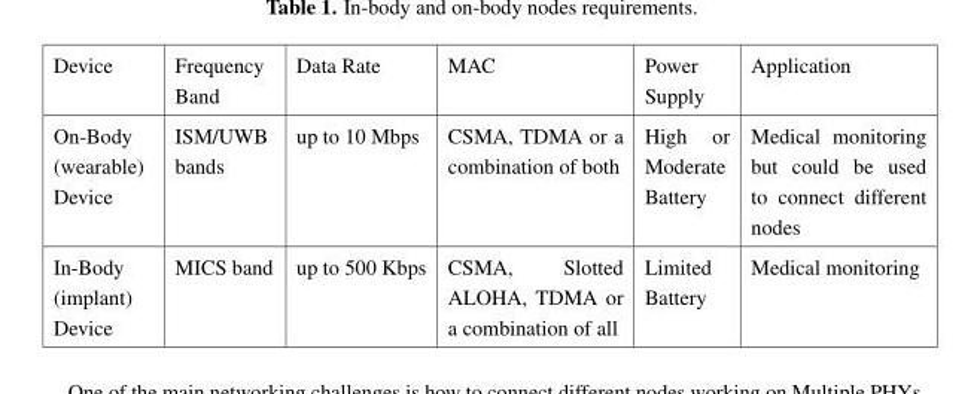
<table><thead><tr><td>Device</td><td>Frequency Band</td><td>Data Rate</td><td>MAC</td><td>Power Supply</td><td>Application</td></tr></thead><tbody><tr><td>On-Body (wearable) Device</td><td>ISM/UWB bands</td><td>up to 10 Mbps</td><td>CSMA, TDMA or a combination of both</td><td>High or Moderate Battery</td><td>Medical monitoring but could be used to connect different nodes</td></tr><tr><td>In-Body (implant) Device</td><td>MICS band</td><td>up to 500 Kbps</td><td>CSMA, Slotted ALOHA, TDMA or a combination of all</td><td>Limited Battery</td><td>Medical monitoring</td></tr></tbody></table>